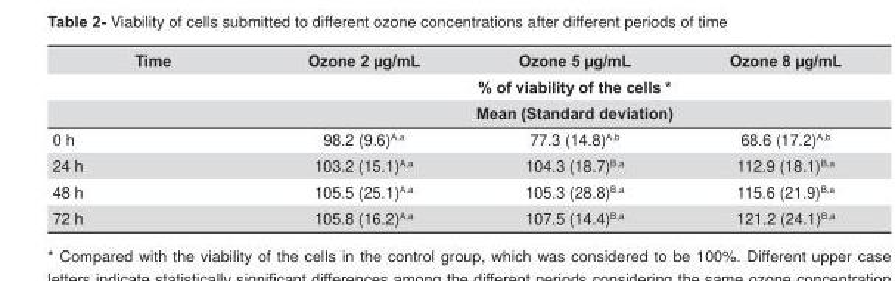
<table><thead><tr><td rowspan="3">Time</td><td>Ozone 2 μg/mL</td><td>Ozone 5 μg/mL</td><td>Ozone 8 μg/mL</td></tr><tr><td rowspan="2" colspan="3">% of viability of the cells * Mean (Standard deviation)</td></tr><tr></tr></thead><tbody><tr><td>0 h</td><td>98.2 (9.6)<sup>A,a</sup></td><td>77.3 (14.8)<sup>A,b</sup></td><td>68.6 (17.2)<sup>A,b</sup></td></tr><tr><td>24 h</td><td>103.2 (15.1)<sup>A,a</sup></td><td>104.3 (18.7)<sup>B,a</sup></td><td>112.9 (18.1)<sup>B,a</sup></td></tr><tr><td>48 h</td><td>105.5 (25.1)<sup>A,a</sup></td><td>105.3 (28.8)<sup>B,a</sup></td><td>115.6 (21.9)<sup>B,a</sup></td></tr><tr><td>72 h</td><td>105.8 (16.2)<sup>A,a</sup></td><td>107.5 (14.4)<sup>B,a</sup></td><td>121.2 (24.1)<sup>B,a</sup></td></tr></tbody></table>